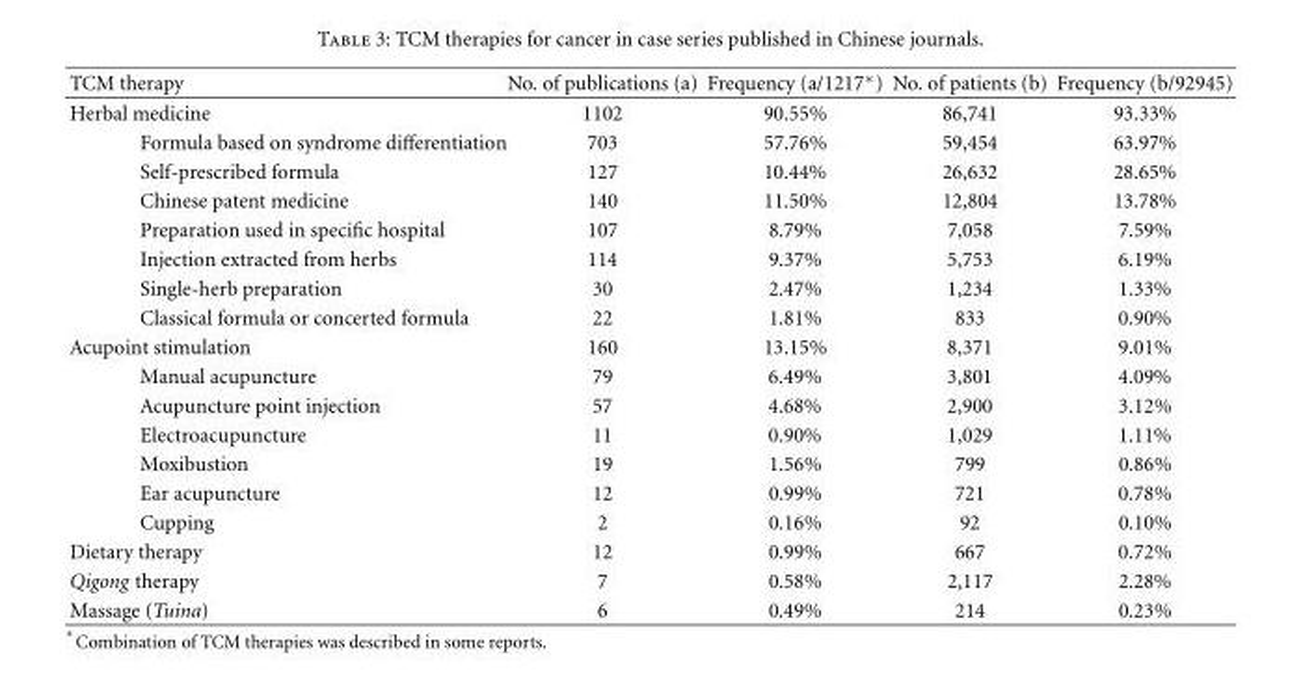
<table><thead><tr><td>TCM therapy</td><td>No. of publications (a)</td><td>Frequency (a/1217∗)</td><td>No. of patients (b)</td><td>Frequency (b/92945)</td></tr></thead><tbody><tr><td>Herbal medicine</td><td>1102</td><td>90.55%</td><td>86,741</td><td>93.33%</td></tr><tr><td>Formula based on syndrome differentiation</td><td>703</td><td>57.76%</td><td>59,454</td><td>63.97%</td></tr><tr><td>Self-prescribed formula</td><td>127</td><td>10.44%</td><td>26,632</td><td>28.65%</td></tr><tr><td>Chinese patent medicine</td><td>140</td><td>11.50%</td><td>12,804</td><td>13.78%</td></tr><tr><td>Preparation used in specific hospital</td><td>107</td><td>8.79%</td><td>7,058</td><td>7.59%</td></tr><tr><td>Injection extracted from herbs</td><td>114</td><td>9.37%</td><td>5,753</td><td>6.19%</td></tr><tr><td>Single-herb preparation</td><td>30</td><td>2.47%</td><td>1,234</td><td>1.33%</td></tr><tr><td>Classical formula or concerted formula</td><td>22</td><td>1.81%</td><td>833</td><td>0.90%</td></tr><tr><td>Acupoint stimulation</td><td>160</td><td>13.15%</td><td>8,371</td><td>9.01%</td></tr><tr><td>Manual acupuncture</td><td>79</td><td>6.49%</td><td>3,801</td><td>4.09%</td></tr><tr><td>Acupuncture point injection</td><td>57</td><td>4.68%</td><td>2,900</td><td>3.12%</td></tr><tr><td>Electroacupuncture</td><td>11</td><td>0.90%</td><td>1,029</td><td>1.11%</td></tr><tr><td>Moxibustion</td><td>19</td><td>1.56%</td><td>799</td><td>0.86%</td></tr><tr><td>Ear acupuncture</td><td>12</td><td>0.99%</td><td>721</td><td>0.78%</td></tr><tr><td>Cupping</td><td>2</td><td>0.16%</td><td>92</td><td>0.10%</td></tr><tr><td>Dietary therapy</td><td>12</td><td>0.99%</td><td>667</td><td>0.72%</td></tr><tr><td>Qigong therapy</td><td>7</td><td>0.58%</td><td>2,117</td><td>2.28%</td></tr><tr><td>Massage (Tuina)</td><td>6</td><td>0.49%</td><td>214</td><td>0.23%</td></tr></tbody></table>